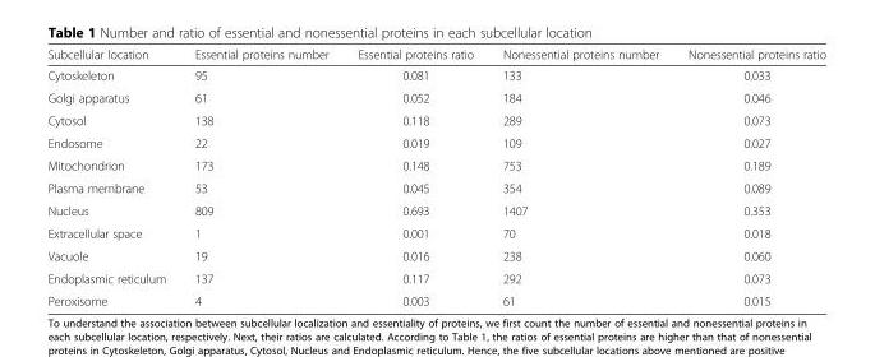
<table><thead><tr><td>Subcellular location</td><td>Essential proteins number</td><td>Essential proteins ratio</td><td>Nonessential proteins number</td><td>Nonessential proteins ratio</td></tr></thead><tbody><tr><td>Cytoskeleton</td><td>95</td><td>0.081</td><td>133</td><td>0.033</td></tr><tr><td>Golgi apparatus</td><td>61</td><td>0.052</td><td>184</td><td>0.046</td></tr><tr><td>Cytosol</td><td>138</td><td>0.118</td><td>289</td><td>0.073</td></tr><tr><td>Endosome</td><td>22</td><td>0.019</td><td>109</td><td>0.027</td></tr><tr><td>Mitochondrion</td><td>173</td><td>0.148</td><td>753</td><td>0.189</td></tr><tr><td>Plasma membrane</td><td>53</td><td>0.045</td><td>354</td><td>0.089</td></tr><tr><td>Nucleus</td><td>809</td><td>0.693</td><td>1407</td><td>0.353</td></tr><tr><td>Extracellular space</td><td>1</td><td>0.001</td><td>70</td><td>0.018</td></tr><tr><td>Vacuole</td><td>19</td><td>0.016</td><td>238</td><td>0.060</td></tr><tr><td>Endoplasmic reticulum</td><td>137</td><td>0.117</td><td>292</td><td>0.073</td></tr><tr><td>Peroxisome</td><td>4</td><td>0.003</td><td>61</td><td>0.015</td></tr></tbody></table>